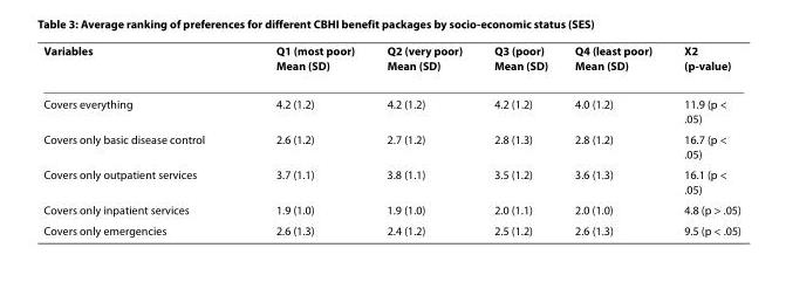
<table><thead><tr><td>Variables</td><td>Q1 (most poor) Mean (SD)</td><td>Q2 (very poor) Mean (SD)</td><td>Q3 (poor) Mean (SD)</td><td>Q4 (least poor) Mean (SD)</td><td>X2 (p-value)</td></tr></thead><tbody><tr><td>Covers everything</td><td>4.2 (1.2)</td><td>4.2 (1.2)</td><td>4.2 (1.2)</td><td>4.0 (1.2)</td><td>11.9 (p &lt; .05)</td></tr><tr><td>Covers only basic disease control</td><td>2.6 (1.2)</td><td>2.7 (1.2)</td><td>2.8 (1.3)</td><td>2.8 (1.2)</td><td>16.7 (p &lt; .05)</td></tr><tr><td>Covers only outpatient services</td><td>3.7 (1.1)</td><td>3.8 (1.1)</td><td>3.5 (1.2)</td><td>3.6 (1.3)</td><td>16.1 (p &lt; .05)</td></tr><tr><td>Covers only inpatient services</td><td>1.9 (1.0)</td><td>1.9 (1.0)</td><td>2.0 (1.1)</td><td>2.0 (1.0)</td><td>4.8 (p &gt; .05)</td></tr><tr><td>Covers only emergencies</td><td>2.6 (1.3)</td><td>2.4 (1.2)</td><td>2.5 (1.2)</td><td>2.6 (1.3)</td><td>9.5 (p &lt; .05)</td></tr></tbody></table>